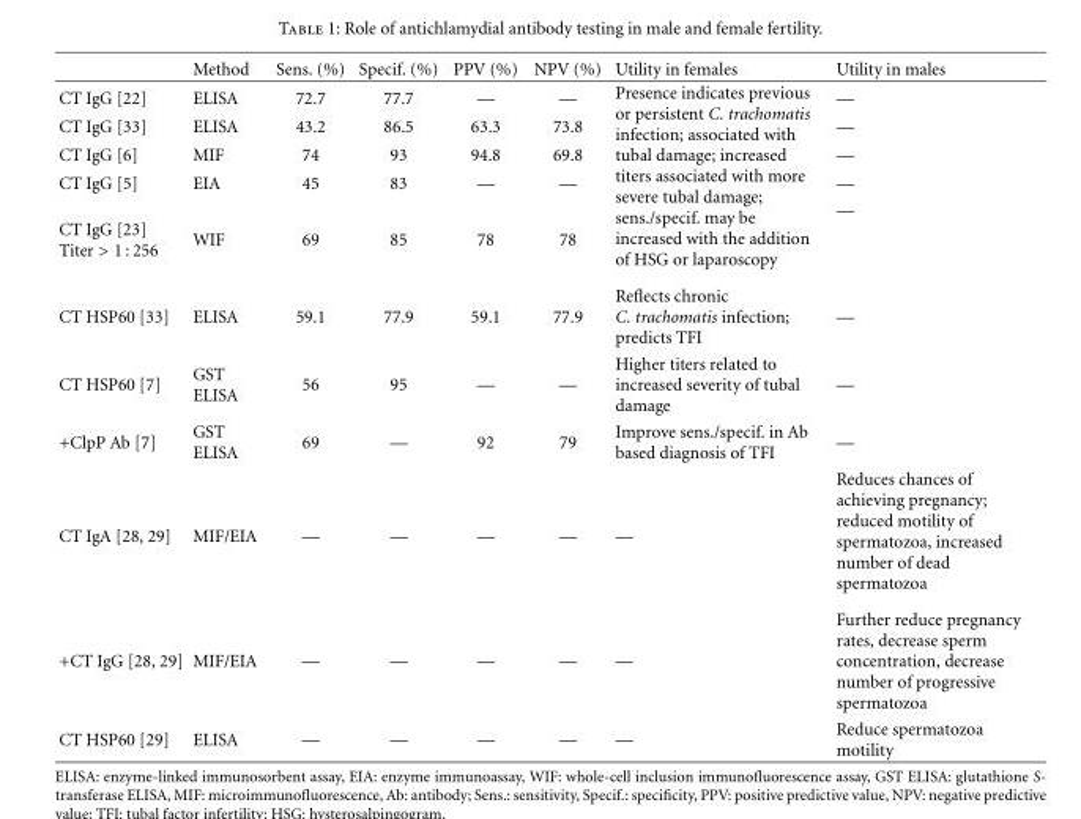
<table><thead><tr><td></td><td>Method</td><td>Sens. (%)</td><td>Specif. (%)</td><td>PPV (%)</td><td>NPV (%)</td><td>Utility in females</td><td>Utility in males</td></tr></thead><tbody><tr><td>CT IgG [22]</td><td>ELISA</td><td>72.7</td><td>77.7</td><td>—</td><td>—</td><td rowspan="5">Presence indicates previous or persistent C. trachomatis infection; associated with tubal damage; increased titers associated with more severe tubal damage; sens./specif. may be increased with the addition of HSG or laparoscopy</td><td>—</td></tr><tr><td>CT IgG [33]</td><td>ELISA</td><td>43.2</td><td>86.5</td><td>63.3</td><td>73.8</td><td>—</td></tr><tr><td>CT IgG [6]</td><td>MIF</td><td>74</td><td>93</td><td>94.8</td><td>69.8</td><td>—</td></tr><tr><td>CT IgG [5]</td><td>EIA</td><td>45</td><td>83</td><td>—</td><td>—</td><td>—</td></tr><tr><td>CT IgG [23] Titer &gt; 1 : 256</td><td>WIF</td><td>69</td><td>85</td><td>78</td><td>78</td><td>—</td></tr><tr><td>CT HSP60 [33]</td><td>ELISA</td><td>59.1</td><td>77.9</td><td>59.1</td><td>77.9</td><td>Reflects chronic C. trachomatis infection; predicts TFI</td><td>—</td></tr><tr><td>CT HSP60 [7]</td><td>GST ELISA</td><td>56</td><td>95</td><td>—</td><td>—</td><td>Higher titers related to increased severity of tubal damage</td><td>—</td></tr><tr><td>+ClpP Ab [7]</td><td>GST ELISA</td><td>69</td><td>—</td><td>92</td><td>79</td><td>Improve sens./specif. in Ab based diagnosis of TFI</td><td>—</td></tr><tr><td>CT IgA [28, 29]</td><td>MIF/EIA</td><td>—</td><td>—</td><td>—</td><td>—</td><td>—</td><td>Reduces chances of achieving pregnancy; reduced motility of spermatozoa, increased number of dead spermatozoa</td></tr><tr><td>+CT IgG [28, 29]</td><td>MIF/EIA</td><td>—</td><td>—</td><td>—</td><td>—</td><td>—</td><td>Further reduce pregnancy rates, decrease sperm concentration, decrease number of progressive spermatozoa</td></tr><tr><td>CT HSP60 [29]</td><td>ELISA</td><td>—</td><td>—</td><td>—</td><td>—</td><td>—</td><td>Reduce spermatozoa motility</td></tr></tbody></table>